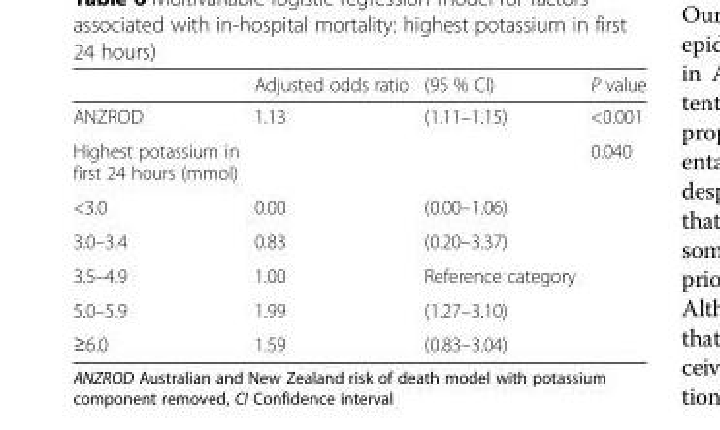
<table><thead><tr><td></td><td>Adjusted odds ratio</td><td>(95 % CI)</td><td>P value</td></tr></thead><tbody><tr><td>ANZROD</td><td>1.13</td><td>(1.11–1.15)</td><td>&lt;0.001</td></tr><tr><td>Highest potassium in first 24 hours (mmol)</td><td></td><td></td><td>0.040</td></tr><tr><td>&lt;3.0</td><td>0.00</td><td>(0.00–1.06)</td><td></td></tr><tr><td>3.0–3.4</td><td>0.83</td><td>(0.20–3.37)</td><td></td></tr><tr><td>3.5–4.9</td><td>1.00</td><td>Reference category</td><td></td></tr><tr><td>5.0–5.9</td><td>1.99</td><td>(1.27–3.10)</td><td></td></tr><tr><td>≥6.0</td><td>1.59</td><td>(0.83–3.04)</td><td></td></tr></tbody></table>